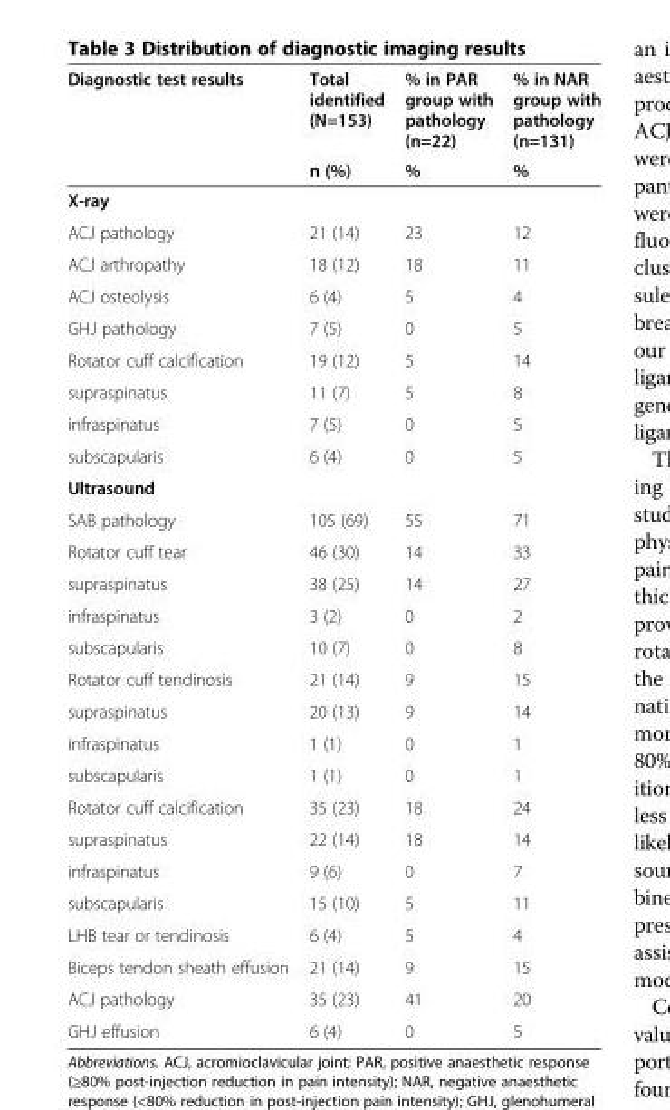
<table><thead><tr><td rowspan="2">Diagnostic test results</td><td rowspan="2">Total identified (N=153) n (%)</td><td rowspan="2">% in PAR group with pathology (n=22) %</td><td rowspan="2">% in NAR group with pathology (n=131) %</td></tr><tr></tr></thead><tbody><tr><td colspan="4">X-ray</td></tr><tr><td>ACJ pathology</td><td>21 (14)</td><td>23</td><td>12</td></tr><tr><td>ACJ arthropathy</td><td>18 (12)</td><td>18</td><td>11</td></tr><tr><td>ACJ osteolysis</td><td>6 (4)</td><td>5</td><td>4</td></tr><tr><td>GHJ pathology</td><td>7 (5)</td><td>0</td><td>5</td></tr><tr><td>Rotator cuff calcification</td><td>19 (12)</td><td>5</td><td>14</td></tr><tr><td>supraspinatus</td><td>11 (7)</td><td>5</td><td>8</td></tr><tr><td>infraspinatus</td><td>7 (5)</td><td>0</td><td>5</td></tr><tr><td>subscapularis</td><td>6 (4)</td><td>0</td><td>5</td></tr><tr><td colspan="4">Ultrasound</td></tr><tr><td>SAB pathology</td><td>105 (69)</td><td>55</td><td>71</td></tr><tr><td>Rotator cuff tear</td><td>46 (30)</td><td>14</td><td>33</td></tr><tr><td>supraspinatus</td><td>38 (25)</td><td>14</td><td>27</td></tr><tr><td>infraspinatus</td><td>3 (2)</td><td>0</td><td>2</td></tr><tr><td>subscapularis</td><td>10 (7)</td><td>0</td><td>8</td></tr><tr><td>Rotator cuff tendinosis</td><td>21 (14)</td><td>9</td><td>15</td></tr><tr><td>supraspinatus</td><td>20 (13)</td><td>9</td><td>14</td></tr><tr><td>infraspinatus</td><td>1 (1)</td><td>0</td><td>1</td></tr><tr><td>subscapularis</td><td>1 (1)</td><td>0</td><td>1</td></tr><tr><td>Rotator cuff calcification</td><td>35 (23)</td><td>18</td><td>24</td></tr><tr><td>supraspinatus</td><td>22 (14)</td><td>18</td><td>14</td></tr><tr><td>infraspinatus</td><td>9 (6)</td><td>0</td><td>7</td></tr><tr><td>subscapularis</td><td>15 (10)</td><td>5</td><td>11</td></tr><tr><td>LHB tear or tendinosis</td><td>6 (4)</td><td>5</td><td>4</td></tr><tr><td>Biceps tendon sheath effusion</td><td>21 (14)</td><td>9</td><td>15</td></tr><tr><td>ACJ pathology</td><td>35 (23)</td><td>41</td><td>20</td></tr><tr><td>GHJ effusion</td><td>6 (4)</td><td>0</td><td>5</td></tr></tbody></table>